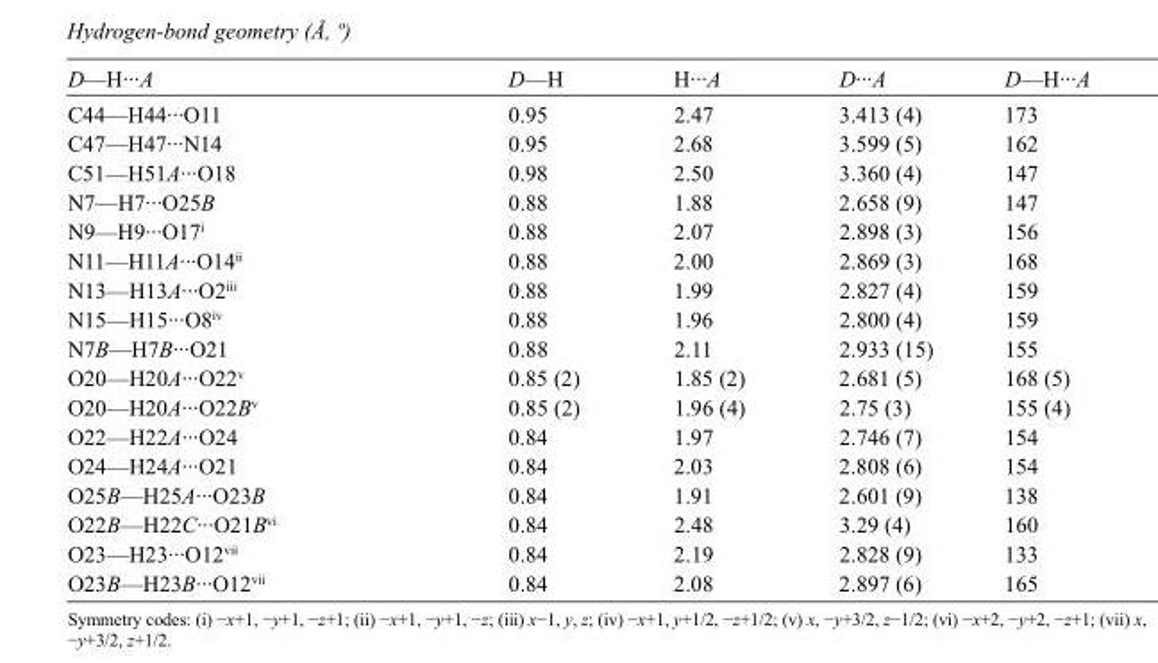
<table><tbody><tr><td>D—H···A</td><td>D—H</td><td>H···A</td><td>D···A</td><td>D—H···A</td></tr><tr><td>C44—H44···O11</td><td>0.95</td><td>2.47</td><td>3.413 (4)</td><td>173</td></tr><tr><td>C47—H47···N14</td><td>0.95</td><td>2.68</td><td>3.599 (5)</td><td>162</td></tr><tr><td>C51—H51A···O18</td><td>0.98</td><td>2.50</td><td>3.360 (4)</td><td>147</td></tr><tr><td>N7—H7···O25B</td><td>0.88</td><td>1.88</td><td>2.658 (9)</td><td>147</td></tr><tr><td>N9—H9···O17<sup>i</sup></td><td>0.88</td><td>2.07</td><td>2.898 (3)</td><td>156</td></tr><tr><td>N11—H11A···O14<sup>ii</sup></td><td>0.88</td><td>2.00</td><td>2.869 (3)</td><td>168</td></tr><tr><td>N13—H13A···O2<sup>iii</sup></td><td>0.88</td><td>1.99</td><td>2.827 (4)</td><td>159</td></tr><tr><td>N15—H15···O8<sup>iv</sup></td><td>0.88</td><td>1.96</td><td>2.800 (4)</td><td>159</td></tr><tr><td>N7B—H7B···O21</td><td>0.88</td><td>2.11</td><td>2.933 (15)</td><td>155</td></tr><tr><td>O20—H20A···O22<sup>v</sup></td><td>0.85 (2)</td><td>1.85 (2)</td><td>2.681 (5)</td><td>168 (5)</td></tr><tr><td>O20—H20A···O22B<sup>v</sup></td><td>0.85 (2)</td><td>1.96 (4)</td><td>2.75 (3)</td><td>155 (4)</td></tr><tr><td>O22—H22A···O24</td><td>0.84</td><td>1.97</td><td>2.746 (7)</td><td>154</td></tr><tr><td>O24—H24A···O21</td><td>0.84</td><td>2.03</td><td>2.808 (6)</td><td>154</td></tr><tr><td>O25B—H25A···O23B</td><td>0.84</td><td>1.91</td><td>2.601 (9)</td><td>138</td></tr><tr><td>O22B—H22C···O21B<sup>vi</sup></td><td>0.84</td><td>2.48</td><td>3.29 (4)</td><td>160</td></tr><tr><td>O23—H23···O12<sup>vii</sup></td><td>0.84</td><td>2.19</td><td>2.828 (9)</td><td>133</td></tr><tr><td>O23B—H23B···O12<sup>vii</sup></td><td>0.84</td><td>2.08</td><td>2.897 (6)</td><td>165</td></tr></tbody></table>